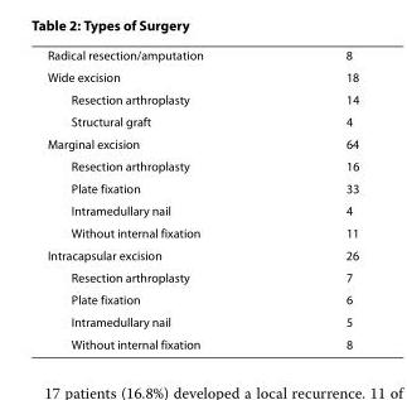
<table><tbody><tr><td>Radical resection/amputation</td><td>8</td></tr><tr><td>Wide excision</td><td>18</td></tr><tr><td>Resection arthroplasty</td><td>14</td></tr><tr><td>Structural graft</td><td>4</td></tr><tr><td>Marginal excision</td><td>64</td></tr><tr><td>Resection arthroplasty</td><td>16</td></tr><tr><td>Plate fixation</td><td>33</td></tr><tr><td>Intramedullary nail</td><td>4</td></tr><tr><td>Without internal fixation</td><td>11</td></tr><tr><td>Intracapsular excision</td><td>26</td></tr><tr><td>Resection arthroplasty</td><td>7</td></tr><tr><td>Plate fixation</td><td>6</td></tr><tr><td>Intramedullary nail</td><td>5</td></tr><tr><td>Without internal fixation</td><td>8</td></tr></tbody></table>